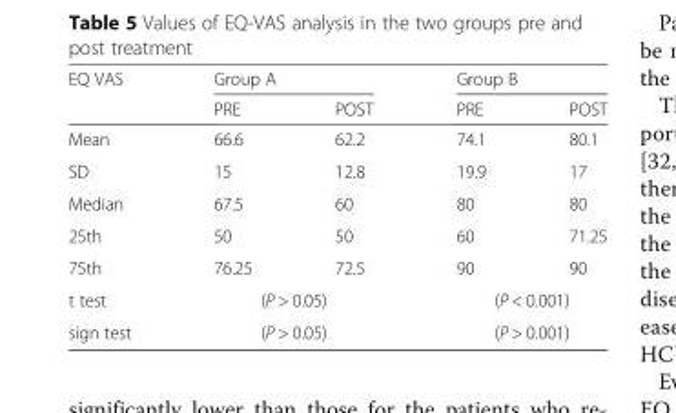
<table><thead><tr><td rowspan="2">EQ VAS</td><td colspan="2">Group A</td><td colspan="2">Group B</td></tr><tr><td>PRE</td><td>POST</td><td>PRE</td><td>POST</td></tr></thead><tbody><tr><td>Mean</td><td>66.6</td><td>62.2</td><td>74.1</td><td>80.1</td></tr><tr><td>SD</td><td>15</td><td>12.8</td><td>19.9</td><td>17</td></tr><tr><td>Median</td><td>67.5</td><td>60</td><td>80</td><td>80</td></tr><tr><td>25th</td><td>50</td><td>50</td><td>60</td><td>71.25</td></tr><tr><td>75th</td><td>76.25</td><td>72.5</td><td>90</td><td>90</td></tr><tr><td>t test</td><td colspan="2">(P &gt; 0.05)</td><td colspan="2">(P &lt; 0.001)</td></tr><tr><td>sign test</td><td colspan="2">(P &gt; 0.05)</td><td colspan="2">(P &gt; 0.001)</td></tr></tbody></table>